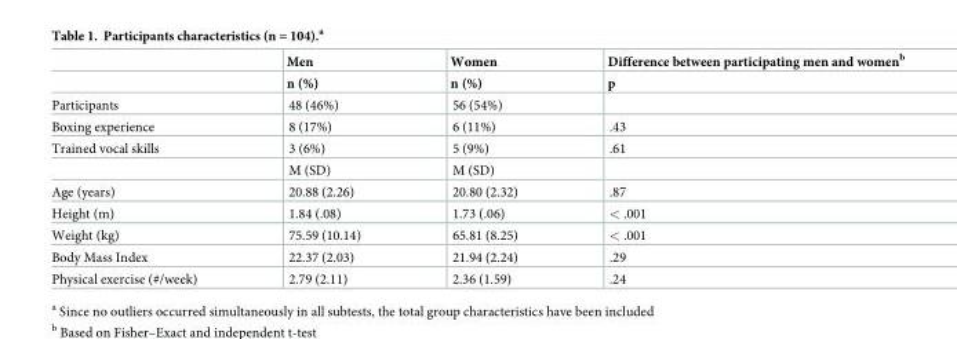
<table><thead><tr><td rowspan="2"></td><td rowspan="2">Men n (%)</td><td rowspan="2">Women n (%)</td><td rowspan="2">Difference between participating men and women<sup>b</sup> p</td></tr><tr></tr></thead><tbody><tr><td>Participants</td><td>48 (46%)</td><td>56 (54%)</td><td></td></tr><tr><td>Boxing experience</td><td>8 (17%)</td><td>6 (11%)</td><td>.43</td></tr><tr><td rowspan="2">Trained vocal skills</td><td>3 (6%)</td><td>5 (9%)</td><td>.61</td></tr><tr><td>M (SD)</td><td>M (SD)</td><td></td></tr><tr><td>Age (years)</td><td>20.88 (2.26)</td><td>20.80 (2.32)</td><td>.87</td></tr><tr><td>Height (m)</td><td>1.84 (.08)</td><td>1.73 (.06)</td><td>&lt; .001</td></tr><tr><td>Weight (kg)</td><td>75.59 (10.14)</td><td>65.81 (8.25)</td><td>&lt; .001</td></tr><tr><td>Body Mass Index</td><td>22.37 (2.03)</td><td>21.94 (2.24)</td><td>.29</td></tr><tr><td>Physical exercise (#/week)</td><td>2.79 (2.11)</td><td>2.36 (1.59)</td><td>.24</td></tr></tbody></table>